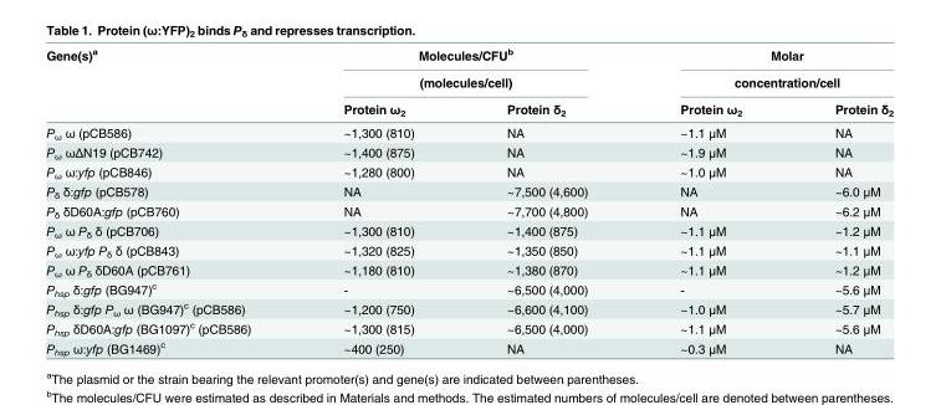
<table><thead><tr><td rowspan="3">Gene(s)<sup>a</sup></td><td rowspan="2" colspan="2">Molecules/CFU<sup>b</sup> (molecules/cell)</td><td rowspan="2" colspan="2">Molar concentration/cell</td></tr><tr></tr><tr><td>Protein ω<sub>2</sub></td><td>Protein δ<sub>2</sub></td><td>Protein ω<sub>2</sub></td><td>Protein δ<sub>2</sub></td></tr></thead><tbody><tr><td>P<sub>ω</sub> ω (pCB586)</td><td>~1,300 (810)</td><td>NA</td><td>~1.1 μM</td><td>NA</td></tr><tr><td>P<sub>ω</sub> ωΔN19 (pCB742)</td><td>~1,400 (875)</td><td>NA</td><td>~1.9 μM</td><td>NA</td></tr><tr><td>P<sub>ω</sub> ω:yfp (pCB846)</td><td>~1,280 (800)</td><td>NA</td><td>~1.0 μM</td><td>NA</td></tr><tr><td>P<sub>δ</sub> δ:gfp (pCB578)</td><td>NA</td><td>~7,500 (4,600)</td><td>NA</td><td>~6.0 μM</td></tr><tr><td>P<sub>δ</sub> δD60A:gfp (pCB760)</td><td>NA</td><td>~7,700 (4,800)</td><td>NA</td><td>~6.2 μM</td></tr><tr><td>P<sub>ω</sub> ω P<sub>δ</sub> δ (pCB706)</td><td>~1,300 (810)</td><td>~1,400 (875)</td><td>~1.1 μM</td><td>~1.2 μM</td></tr><tr><td>P<sub>ω</sub> ω:yfp P<sub>δ</sub> δ (pCB843)</td><td>~1,320 (825)</td><td>~1,350 (850)</td><td>~1.1 μM</td><td>~1.1 μM</td></tr><tr><td>P<sub>ω</sub> ω P<sub>δ</sub> δD60A (pCB761)</td><td>~1,180 (810)</td><td>~1,380 (870)</td><td>~1.1 μM</td><td>~1.2 μM</td></tr><tr><td>P<sub>hsp</sub> δ:gfp (BG947)<sup>c</sup></td><td>-</td><td>~6,500 (4,000)</td><td>-</td><td>~5.6 μM</td></tr><tr><td>P<sub>hsp</sub> δ:gfp P<sub>ω</sub> ω (BG947)<sup>c</sup> (pCB586)</td><td>~1,200 (750)</td><td>~6,600 (4,100)</td><td>~1.0 μM</td><td>~5.7 μM</td></tr><tr><td>P<sub>hsp</sub> δD60A:gfp (BG1097)<sup>c</sup> (pCB586)</td><td>~1,300 (815)</td><td>~6,500 (4,000)</td><td>~1.1 μM</td><td>~5.6 μM</td></tr><tr><td>P<sub>hsp</sub> ω:yfp (BG1469)<sup>c</sup></td><td>~400 (250)</td><td>NA</td><td>~0.3 μM</td><td>NA</td></tr></tbody></table>